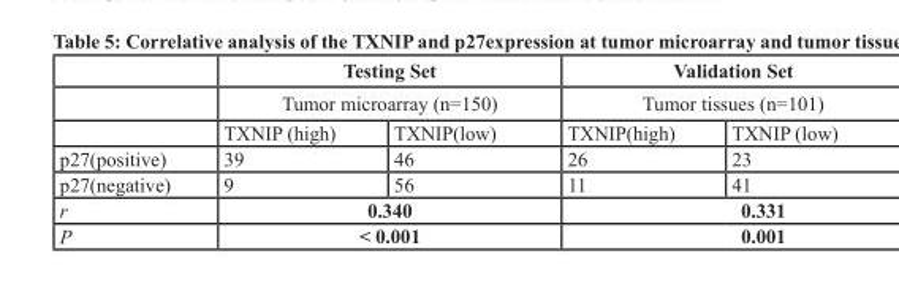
<table><thead><tr><td rowspan="3"></td><td rowspan="2" colspan="2">Testing Set Tumor microarray (n=150)</td><td rowspan="2" colspan="2">Validation Set Tumor tissues (n=101)</td></tr><tr></tr><tr><td>TXNIP (high)</td><td>TXNIP(low)</td><td>TXNIP(high)</td><td>TXNIP (low)</td></tr></thead><tbody><tr><td>p27(positive)</td><td>39</td><td>46</td><td>26</td><td>23</td></tr><tr><td>p27(negative)</td><td>9</td><td>56</td><td>11</td><td>41</td></tr><tr><td>r</td><td colspan="2">0.340</td><td colspan="2">0.331</td></tr><tr><td>P</td><td colspan="2">&lt; 0.001</td><td colspan="2">0.001</td></tr></tbody></table>